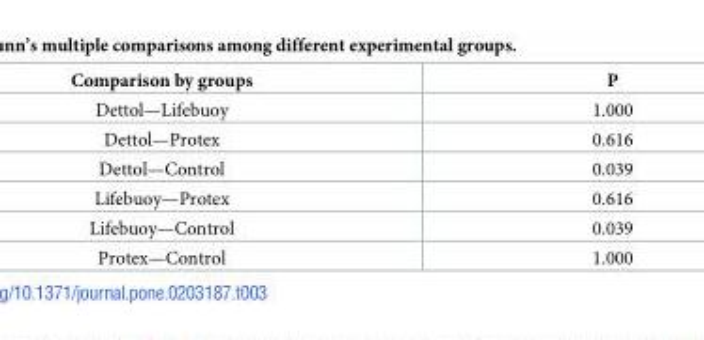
<table><thead><tr><td>Comparison by groups</td><td>P</td></tr></thead><tbody><tr><td>Dettol—Lifebuoy</td><td>1.000</td></tr><tr><td>Dettol—Protex</td><td>0.616</td></tr><tr><td>Dettol—Control</td><td>0.039</td></tr><tr><td>Lifebuoy—Protex</td><td>0.616</td></tr><tr><td>Lifebuoy—Control</td><td>0.039</td></tr><tr><td>Protex—Control</td><td>1.000</td></tr></tbody></table>